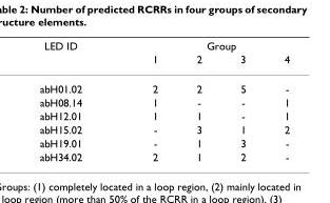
<table><thead><tr><td rowspan="2">LED ID</td><td colspan="4">Group</td></tr><tr><td>1</td><td>2</td><td>3</td><td>4</td></tr></thead><tbody><tr><td>abH01.02</td><td>2</td><td>2</td><td>5</td><td>-</td></tr><tr><td>abH08.14</td><td>1</td><td>-</td><td>-</td><td>1</td></tr><tr><td>abH12.01</td><td>1</td><td>1</td><td>-</td><td>1</td></tr><tr><td>abH15.02</td><td>-</td><td>3</td><td>1</td><td>2</td></tr><tr><td>abH19.01</td><td>-</td><td>1</td><td>3</td><td>-</td></tr><tr><td>abH34.02</td><td>2</td><td>1</td><td>2</td><td>-</td></tr></tbody></table>